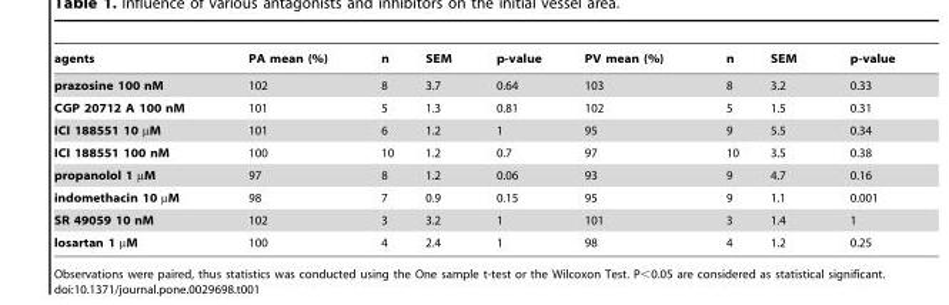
<table><thead><tr><td>agents</td><td>PA mean (%)</td><td>n</td><td>SEM</td><td>p-value</td><td>PV mean (%)</td><td>n</td><td>SEM</td><td>p-value</td></tr></thead><tbody><tr><td>prazosine 100 nM</td><td>102</td><td>8</td><td>3.7</td><td>0.64</td><td>103</td><td>8</td><td>3.2</td><td>0.33</td></tr><tr><td>CGP 20712 A 100 nM</td><td>101</td><td>5</td><td>1.3</td><td>0.81</td><td>102</td><td>5</td><td>1.5</td><td>0.31</td></tr><tr><td>ICI 188551 10 µM</td><td>101</td><td>6</td><td>1.2</td><td>1</td><td>95</td><td>9</td><td>5.5</td><td>0.34</td></tr><tr><td>ICI 188551 100 nM</td><td>100</td><td>10</td><td>1.2</td><td>0.7</td><td>97</td><td>10</td><td>3.5</td><td>0.38</td></tr><tr><td>propanolol 1 µM</td><td>97</td><td>8</td><td>1.2</td><td>0.06</td><td>93</td><td>9</td><td>4.7</td><td>0.16</td></tr><tr><td>indomethacin 10 µM</td><td>98</td><td>7</td><td>0.9</td><td>0.15</td><td>95</td><td>9</td><td>1.1</td><td>0.001</td></tr><tr><td>SR 49059 10 nM</td><td>102</td><td>3</td><td>3.2</td><td>1</td><td>101</td><td>3</td><td>1.4</td><td>1</td></tr><tr><td>losartan 1 µM</td><td>100</td><td>4</td><td>2.4</td><td>1</td><td>98</td><td>4</td><td>1.2</td><td>0.25</td></tr></tbody></table>